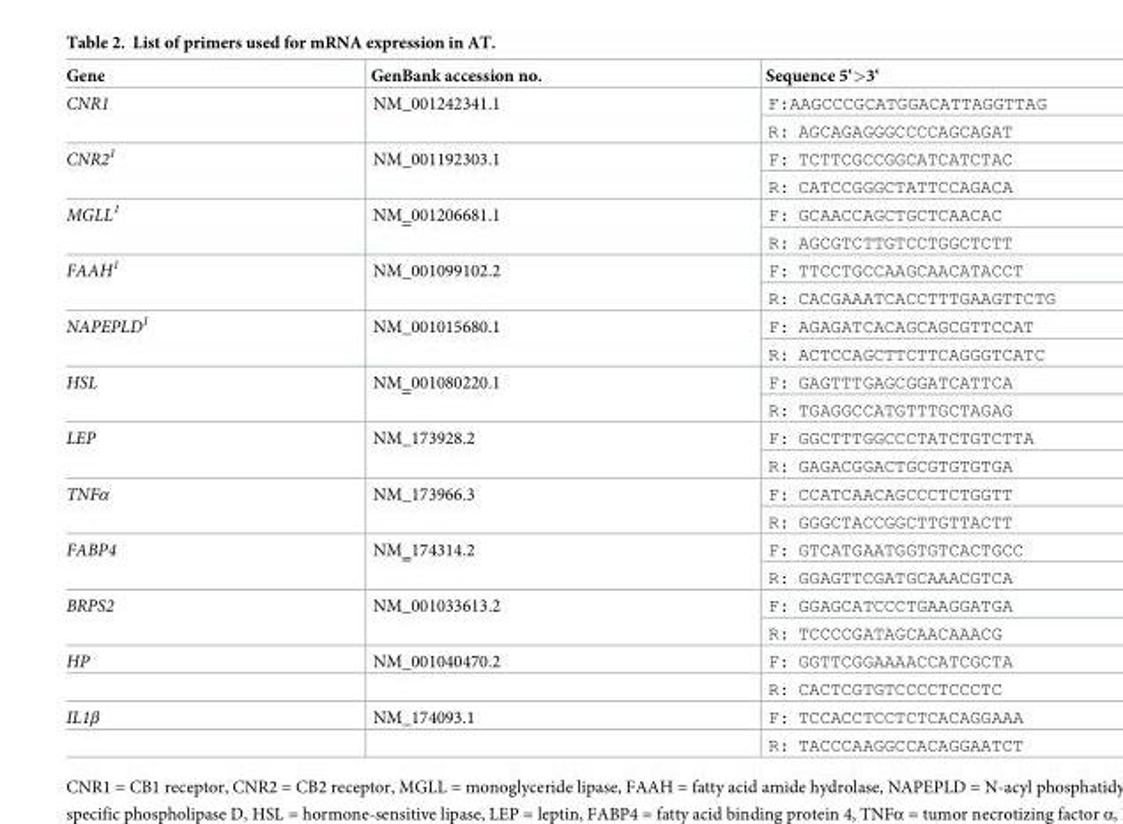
<table><thead><tr><td>Gene</td><td>GenBank accession no.</td><td>Sequence 5‘&gt;3‘</td></tr></thead><tbody><tr><td rowspan="2">CNR1</td><td rowspan="2">NM_001242341.1</td><td>F:AAGCCCGCATGGACATTAGGTTAG</td></tr><tr><td>R: AGCAGAGGGCCCCAGCAGAT</td></tr><tr><td rowspan="2">CNR2<sup>1</sup></td><td rowspan="2">NM_001192303.1</td><td>F: TCTTCGCCGGCATCATCTAC</td></tr><tr><td>R: CATCCGGGCTATTCCAGACA</td></tr><tr><td rowspan="2">MGLL<sup>1</sup></td><td rowspan="2">NM_001206681.1</td><td>F: GCAACCAGCTGCTCAACAC</td></tr><tr><td>R: AGCGTCTTGTCCTGGCTCTT</td></tr><tr><td rowspan="2">FAAH<sup>1</sup></td><td rowspan="2">NM_001099102.2</td><td>F: TTCCTGCCAAGCAACATACCT</td></tr><tr><td>R: CACGAAATCACCTTTGAAGTTCTG</td></tr><tr><td rowspan="2">NAPEPLD<sup>1</sup></td><td rowspan="2">NM_001015680.1</td><td>F: AGAGATCACAGCAGCGTTCCAT</td></tr><tr><td>R: ACTCCAGCTTCTTCAGGGTCATC</td></tr><tr><td rowspan="2">HSL</td><td rowspan="2">NM_001080220.1</td><td>F: GAGTTTGAGCGGATCATTCA</td></tr><tr><td>R: TGAGGCCATGTTTGCTAGAG</td></tr><tr><td rowspan="2">LEP</td><td rowspan="2">NM_173928.2</td><td>F: GGCTTTGGCCCTATCTGTCTTA</td></tr><tr><td>R: GAGACGGACTGCGTGTGTGA</td></tr><tr><td rowspan="2">TNFα</td><td rowspan="2">NM_173966.3</td><td>F: CCATCAACAGCCCTCTGGTT</td></tr><tr><td>R: GGGCTACCGGCTTGTTACTT</td></tr><tr><td rowspan="2">FABP4</td><td rowspan="2">NM_174314.2</td><td>F: GTCATGAATGGTGTCACTGCC</td></tr><tr><td>R: GGAGTTCGATGCAAACGTCA</td></tr><tr><td rowspan="2">BRPS2</td><td rowspan="2">NM_001033613.2</td><td>F: GGAGCATCCCTGAAGGATGA</td></tr><tr><td>R: TCCCCGATAGCAACAAACG</td></tr><tr><td rowspan="2">HP</td><td>NM_001040470.2</td><td>F: GGTTCGGAAAACCATCGCTA</td></tr><tr><td></td><td>R: CACTCGTGTCCCCTCCCTC</td></tr><tr><td rowspan="2">IL1β</td><td>NM_174093.1</td><td>F: TCCACCTCCTCTCACAGGAAA</td></tr><tr><td></td><td>R: TACCCAAGGCCACAGGAATCT</td></tr></tbody></table>